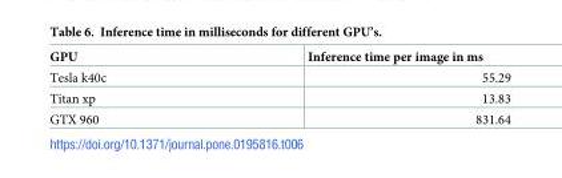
<table><thead><tr><td>GPU</td><td>Inference time per image in ms</td></tr></thead><tbody><tr><td>Tesla k40c</td><td>55.29</td></tr><tr><td>Titan xp</td><td>13.83</td></tr><tr><td>GTX 960</td><td>831.64</td></tr></tbody></table>